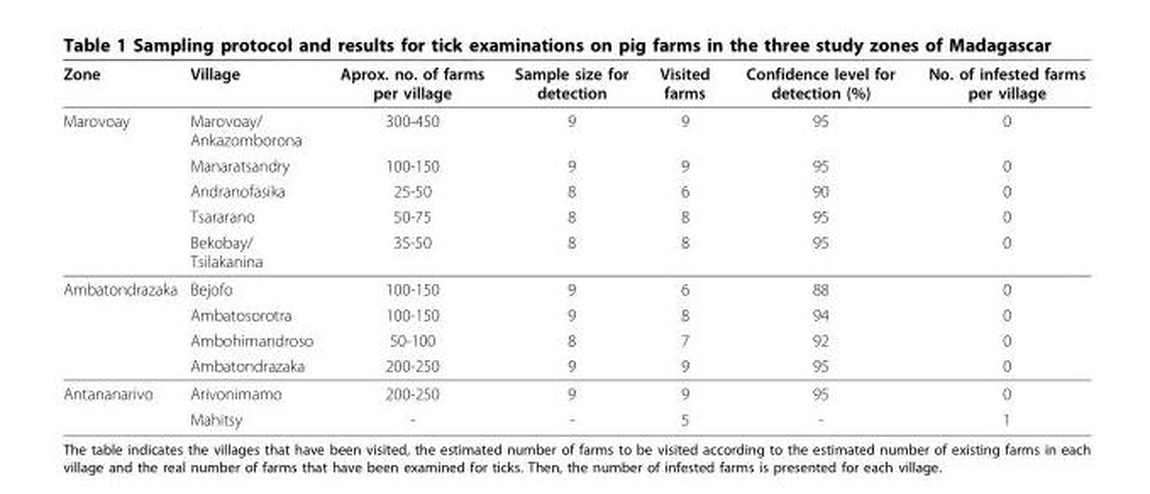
<table><thead><tr><td>Zone</td><td>Village</td><td>Aprox. no. of farms per village</td><td>Sample size for detection</td><td>Visited farms</td><td>Confidence level for detection (%)</td><td>No. of infested farms per village</td></tr></thead><tbody><tr><td rowspan="5">Marovoay</td><td>Marovoay/ Ankazomborona</td><td>300-450</td><td>9</td><td>9</td><td>95</td><td>0</td></tr><tr><td>Manaratsandry</td><td>100-150</td><td>9</td><td>9</td><td>95</td><td>0</td></tr><tr><td>Andranofasika</td><td>25-50</td><td>8</td><td>6</td><td>90</td><td>0</td></tr><tr><td>Tsararano</td><td>50-75</td><td>8</td><td>8</td><td>95</td><td>0</td></tr><tr><td>Bekobay/ Tsilakanina</td><td>35-50</td><td>8</td><td>8</td><td>95</td><td>0</td></tr><tr><td rowspan="4">Ambatondrazaka</td><td>Bejofo</td><td>100-150</td><td>9</td><td>6</td><td>88</td><td>0</td></tr><tr><td>Ambatosorotra</td><td>100-150</td><td>9</td><td>8</td><td>94</td><td>0</td></tr><tr><td>Ambohimandroso</td><td>50-100</td><td>8</td><td>7</td><td>92</td><td>0</td></tr><tr><td>Ambatondrazaka</td><td>200-250</td><td>9</td><td>9</td><td>95</td><td>0</td></tr><tr><td rowspan="2">Antananarivo</td><td>Arivonimamo</td><td>200-250</td><td>9</td><td>9</td><td>95</td><td>0</td></tr><tr><td>Mahitsy</td><td>-</td><td>-</td><td>5</td><td>-</td><td>1</td></tr></tbody></table>